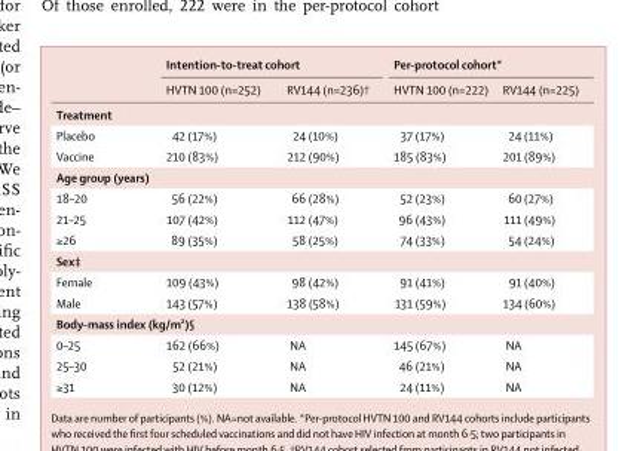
<table><thead><tr><td rowspan="2"></td><td colspan="2">Intention-to-treat cohort</td><td colspan="2">Per-protocol cohort*</td></tr><tr><td>HVTN 100 (n=252)</td><td>RV144 (n=236)†</td><td>HVTN 100 (n=222)</td><td>RV144 (n=225)</td></tr></thead><tbody><tr><td colspan="5">Treatment</td></tr><tr><td>Placebo</td><td>42 (17%)</td><td>24 (10%)</td><td>37 (17%)</td><td>24 (11%)</td></tr><tr><td>Vaccine</td><td>210 (83%)</td><td>212 (90%)</td><td>185 (83%)</td><td>201 (89%)</td></tr><tr><td colspan="5">Age group (years)</td></tr><tr><td>18–20</td><td>56 (22%)</td><td>66 (28%)</td><td>52 (23%)</td><td>60 (27%)</td></tr><tr><td>21–25</td><td>107 (42%)</td><td>112 (47%)</td><td>96 (43%)</td><td>111 (49%)</td></tr><tr><td>≥26</td><td>89 (35%)</td><td>58 (25%)</td><td>74 (33%)</td><td>54 (24%)</td></tr><tr><td colspan="5">Sex‡</td></tr><tr><td>Female</td><td>109 (43%)</td><td>98 (42%)</td><td>91 (41%)</td><td>91 (40%)</td></tr><tr><td>Male</td><td>143 (57%)</td><td>138 (58%)</td><td>131 (59%)</td><td>134 (60%)</td></tr><tr><td colspan="5">Body-mass index (kg/m²)§</td></tr><tr><td>0–25</td><td>162 (66%)</td><td>NA</td><td>145 (67%)</td><td>NA</td></tr><tr><td>25–30</td><td>52 (21%)</td><td>NA</td><td>46 (21%)</td><td>NA</td></tr><tr><td>≥31</td><td>30 (12%)</td><td>NA</td><td>24 (11%)</td><td>NA</td></tr></tbody></table>